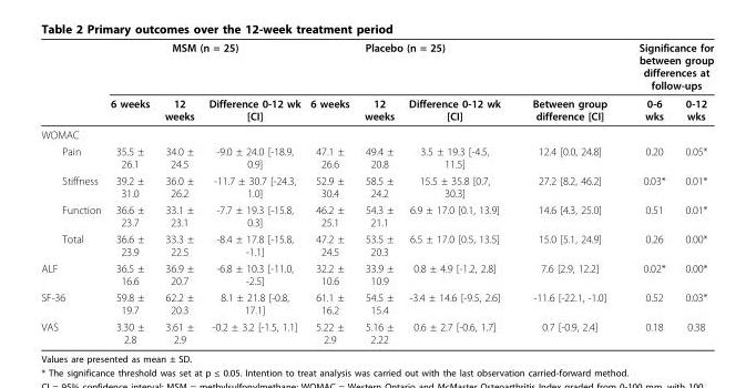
<table><thead><tr><td rowspan="2"></td><td colspan="3">MSM (n = 25)</td><td colspan="3">Placebo (n = 25)</td><td rowspan="2">Between group difference [CI]</td><td colspan="2">Significance for between group differences at follow-ups</td></tr><tr><td>6 weeks</td><td>12 weeks</td><td>Difference 0-12 wk [CI]</td><td>6 weeks</td><td>12 weeks</td><td>Difference 0-12 wk [CI]</td><td>0-6 wks</td><td>0-12 wks</td></tr></thead><tbody><tr><td colspan="10">WOMAC</td></tr><tr><td>Pain</td><td>35.5 ± 26.1</td><td>34.0 ± 24.5</td><td>-9.0 ± 24.0 [-18.9, 0.9]</td><td>47.1 ± 26.6</td><td>49.4 ± 20.8</td><td>3.5 ± 19.3 [-4.5, 11.5]</td><td>12.4 [0.0, 24.8]</td><td>0.20</td><td>0.05*</td></tr><tr><td>Stiffness</td><td>39.2 ± 31.0</td><td>36.0 ± 26.2</td><td>-11.7 ± 30.7 [-24.3, 1.0]</td><td>52.9 ± 30.4</td><td>58.5 ± 24.2</td><td>15.5 ± 35.8 [0.7, 30.3]</td><td>27.2 [8.2, 46.2]</td><td>0.03*</td><td>0.01*</td></tr><tr><td>Function</td><td>36.6 ± 23.7</td><td>33.1 ± 23.1</td><td>-7.7 ± 19.3 [-15.8, 0.3]</td><td>46.2 ± 25.1</td><td>54.3 ± 21.1</td><td>6.9 ± 17.0 [0.1, 13.9]</td><td>14.6 [4.3, 25.0]</td><td>0.51</td><td>0.01*</td></tr><tr><td>Total</td><td>36.6 ± 23.9</td><td>33.3 ± 22.5</td><td>-8.4 ± 17.8 [-15.8, -1.1]</td><td>47.2 ± 24.5</td><td>53.5 ± 20.3</td><td>6.5 ± 17.0 [0.5, 13.5]</td><td>15.0 [5.1, 24.9]</td><td>0.26</td><td>0.00*</td></tr><tr><td>ALF</td><td>36.5 ± 16.6</td><td>36.9 ± 20.7</td><td>-6.8 ± 10.3 [-11.0, -2.5]</td><td>32.2 ± 10.6</td><td>33.9 ± 10.9</td><td>0.8 ± 4.9 [-1.2, 2.8]</td><td>7.6 [2.9, 12.2]</td><td>0.02*</td><td>0.00*</td></tr><tr><td>SF-36</td><td>59.8 ± 19.7</td><td>62.2 ± 20.3</td><td>8.1 ± 21.8 [-0.8, 17.1]</td><td>61.1 ± 16.2</td><td>54.5 ± 15.4</td><td>-3.4 ± 14.6 [-9.5, 2.6]</td><td>-11.6 [-22.1, -1.0]</td><td>0.52</td><td>0.03*</td></tr><tr><td>VAS</td><td>3.30 ± 2.8</td><td>3.61 ± 2.9</td><td>-0.2 ± 3.2 [-1.5, 1.1]</td><td>5.22 ± 2.9</td><td>5.16 ± 2.22</td><td>0.6 ± 2.7 [-0.6, 1.7]</td><td>0.7 [-0.9, 2.4]</td><td>0.18</td><td>0.38</td></tr></tbody></table>